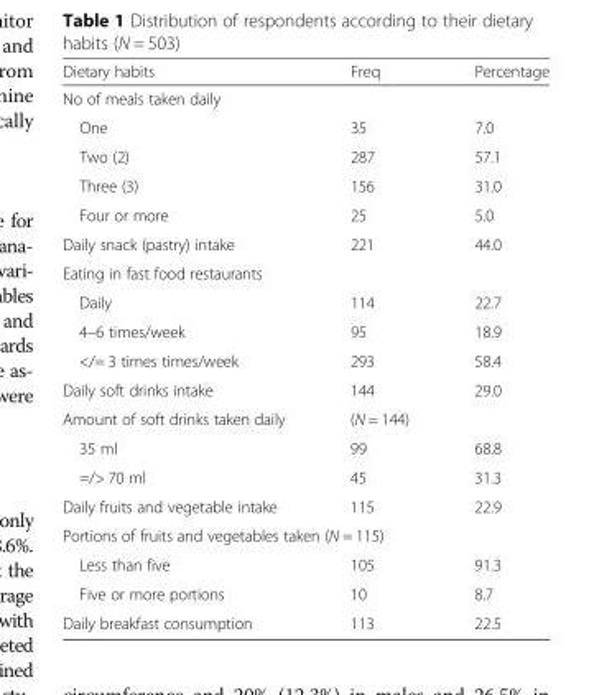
<table><thead><tr><td>Dietary habits</td><td>Freq</td><td>Percentage</td></tr></thead><tbody><tr><td colspan="3">No of meals taken daily</td></tr><tr><td>One</td><td>35</td><td>7.0</td></tr><tr><td>Two (2)</td><td>287</td><td>57.1</td></tr><tr><td>Three (3)</td><td>156</td><td>31.0</td></tr><tr><td>Four or more</td><td>25</td><td>5.0</td></tr><tr><td>Daily snack (pastry) intake</td><td>221</td><td>44.0</td></tr><tr><td colspan="3">Eating in fast food restaurants</td></tr><tr><td>Daily</td><td>114</td><td>22.7</td></tr><tr><td>4–6 times/week</td><td>95</td><td>18.9</td></tr><tr><td>&lt;/= 3 times times/week</td><td>293</td><td>58.4</td></tr><tr><td>Daily soft drinks intake</td><td>144</td><td>29.0</td></tr><tr><td>Amount of soft drinks taken daily</td><td>(N = 144)</td><td></td></tr><tr><td>35 ml</td><td>99</td><td>68.8</td></tr><tr><td>=/&gt; 70 ml</td><td>45</td><td>31.3</td></tr><tr><td>Daily fruits and vegetable intake</td><td>115</td><td>22.9</td></tr><tr><td colspan="3">Portions of fruits and vegetables taken (N = 115)</td></tr><tr><td>Less than five</td><td>105</td><td>91.3</td></tr><tr><td>Five or more portions</td><td>10</td><td>8.7</td></tr><tr><td>Daily breakfast consumption</td><td>113</td><td>22.5</td></tr></tbody></table>